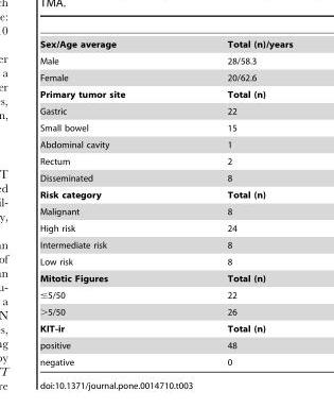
<table><tbody><tr><td>Sex/Age average</td><td>Total (n)/years</td></tr><tr><td>Male</td><td>28/58.3</td></tr><tr><td>Female</td><td>20/62.6</td></tr><tr><td>Primary tumor site</td><td>Total (n)</td></tr><tr><td>Gastric</td><td>22</td></tr><tr><td>Small bowel</td><td>15</td></tr><tr><td>Abdominal cavity</td><td>1</td></tr><tr><td>Rectum</td><td>2</td></tr><tr><td>Disseminated</td><td>8</td></tr><tr><td>Risk category</td><td>Total (n)</td></tr><tr><td>Malignant</td><td>8</td></tr><tr><td>High risk</td><td>24</td></tr><tr><td>Intermediate risk</td><td>8</td></tr><tr><td>Low risk</td><td>8</td></tr><tr><td>Mitotic Figures</td><td>Total (n)</td></tr><tr><td>≤5/50</td><td>22</td></tr><tr><td>&gt;5/50</td><td>26</td></tr><tr><td>KIT-ir</td><td>Total (n)</td></tr><tr><td>positive</td><td>48</td></tr><tr><td>negative</td><td>0</td></tr></tbody></table>